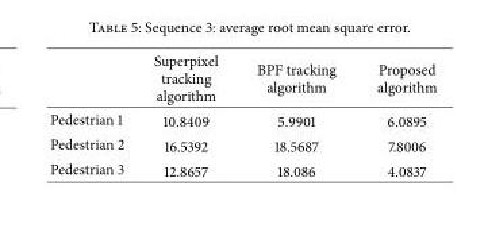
<table><thead><tr><td></td><td>Superpixel tracking algorithm</td><td>BPF tracking algorithm</td><td>Proposed algorithm</td></tr></thead><tbody><tr><td>Pedestrian 1</td><td>10.8409</td><td>5.9901</td><td>6.0895</td></tr><tr><td>Pedestrian 2</td><td>16.5392</td><td>18.5687</td><td>7.8006</td></tr><tr><td>Pedestrian 3</td><td>12.8657</td><td>18.086</td><td>4.0837</td></tr></tbody></table>